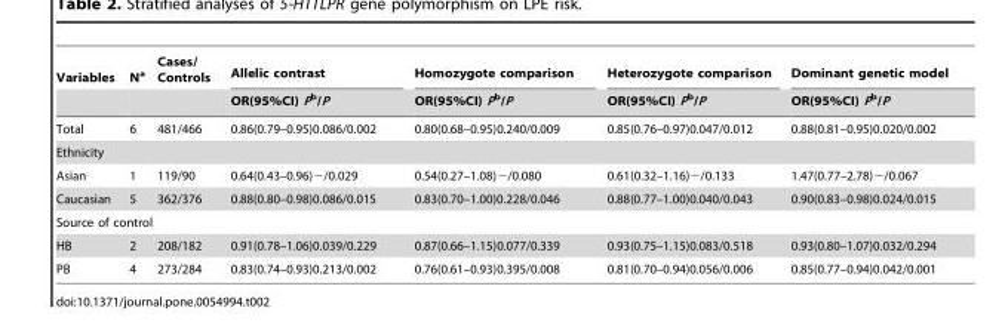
<table><thead><tr><td rowspan="2">Variables</td><td rowspan="2">N<sup>a</sup></td><td rowspan="2">Cases/ Controls</td><td rowspan="2">Allelic contrast OR(95%CI) P<sup>b</sup>/P</td><td rowspan="2">Homozygote comparison OR(95%CI) P<sup>b</sup>/P</td><td rowspan="2">Heterozygote comparison OR(95%CI) P<sup>b</sup>/P</td><td rowspan="2">Dominant genetic model OR(95%CI) P<sup>b</sup>/P</td></tr><tr></tr></thead><tbody><tr><td>Total</td><td>6</td><td>481/466</td><td>0.86(0.79–0.95)0.086/0.002</td><td>0.80(0.68–0.95)0.240/0.009</td><td>0.85(0.76–0.97)0.047/0.012</td><td>0.88(0.81–0.95)0.020/0.002</td></tr><tr><td colspan="7">Ethnicity</td></tr><tr><td>Asian</td><td>1</td><td>119/90</td><td>0.64(0.43–0.96)−/0.029</td><td>0.54(0.27–1.08)−/0.080</td><td>0.61(0.32–1.16)−/0.133</td><td>1.47(0.77–2.78)−/0.067</td></tr><tr><td>Caucasian</td><td>5</td><td>362/376</td><td>0.88(0.80–0.98)0.086/0.015</td><td>0.83(0.70–1.00)0.228/0.046</td><td>0.88(0.77–1.00)0.040/0.043</td><td>0.90(0.83–0.98)0.024/0.015</td></tr><tr><td colspan="7">Source of control</td></tr><tr><td>HB</td><td>2</td><td>208/182</td><td>0.91(0.78–1.06)0.039/0.229</td><td>0.87(0.66–1.15)0.077/0.339</td><td>0.93(0.75–1.15)0.083/0.518</td><td>0.93(0.80–1.07)0.032/0.294</td></tr><tr><td>PB</td><td>4</td><td>273/284</td><td>0.83(0.74–0.93)0.213/0.002</td><td>0.76(0.61–0.93)0.395/0.008</td><td>0.81(0.70–0.94)0.056/0.006</td><td>0.85(0.77–0.94)0.042/0.001</td></tr></tbody></table>